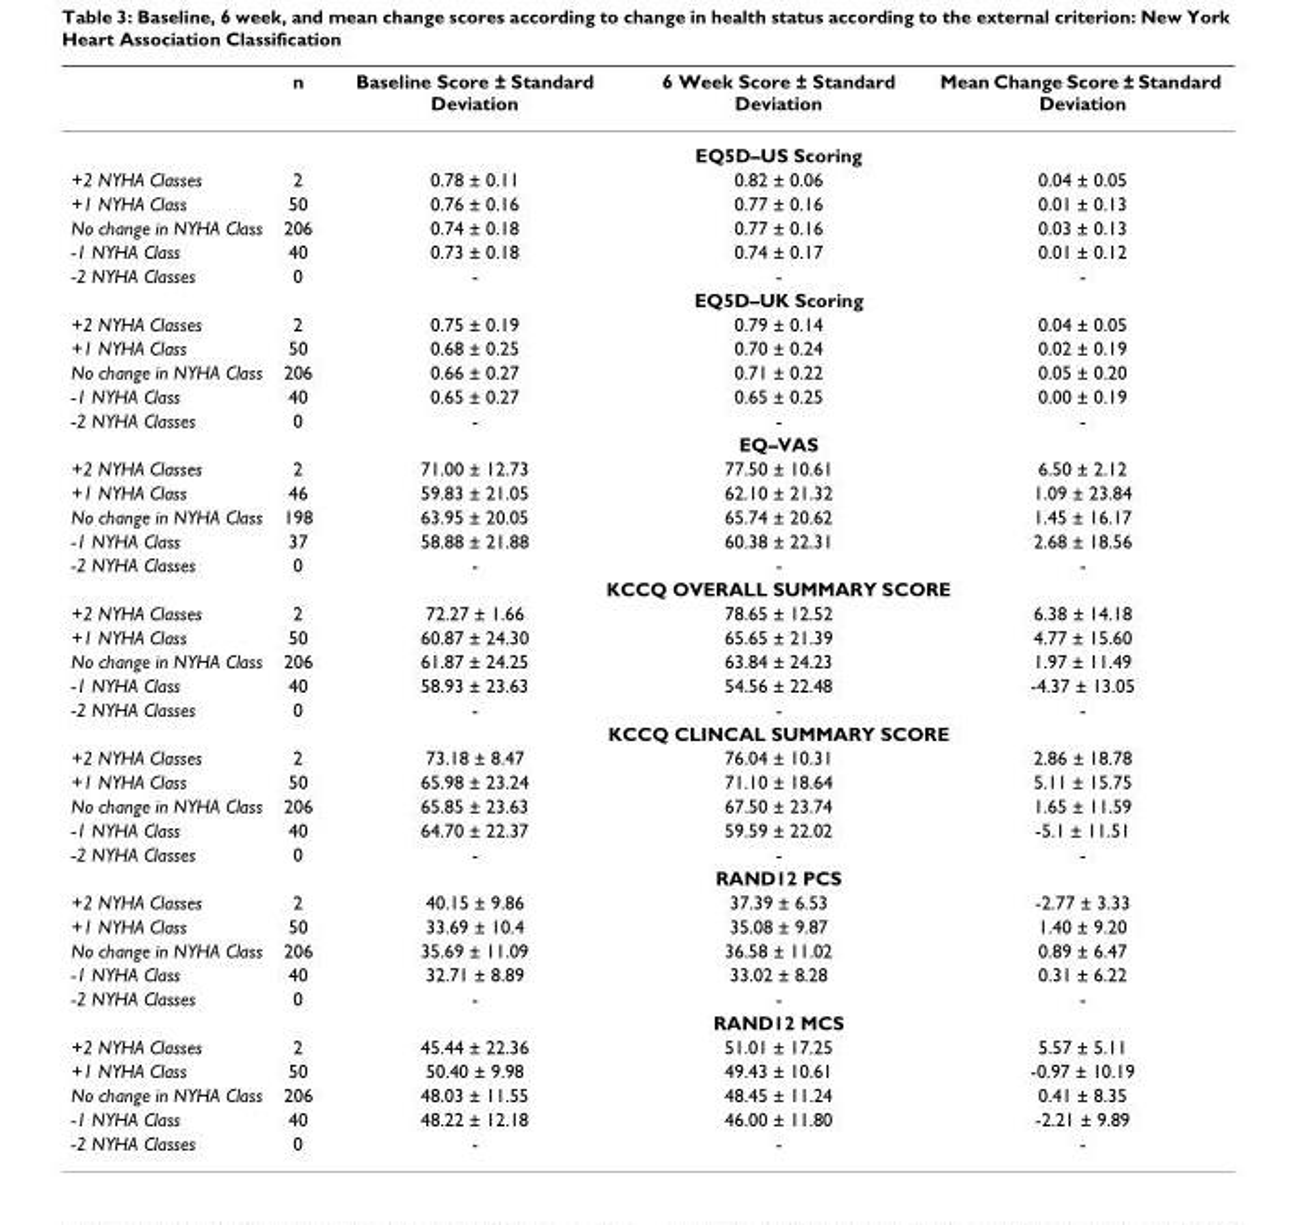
<table><thead><tr><td></td><td>n</td><td>Baseline Score ± Standard Deviation</td><td>6 Week Score ± Standard Deviation</td><td>Mean Change Score ± Standard Deviation</td></tr></thead><tbody><tr><td></td><td></td><td colspan="3">EQ5D–US Scoring</td></tr><tr><td>+2 NYHA Classes</td><td>2</td><td>0.78 ± 0.11</td><td>0.82 ± 0.06</td><td>0.04 ± 0.05</td></tr><tr><td>+1 NYHA Class</td><td>50</td><td>0.76 ± 0.16</td><td>0.77 ± 0.16</td><td>0.01 ± 0.13</td></tr><tr><td>No change in NYHA Class</td><td>206</td><td>0.74 ± 0.18</td><td>0.77 ± 0.16</td><td>0.03 ± 0.13</td></tr><tr><td>-1 NYHA Class</td><td>40</td><td>0.73 ± 0.18</td><td>0.74 ± 0.17</td><td>0.01 ± 0.12</td></tr><tr><td rowspan="2">-2 NYHA Classes</td><td>0</td><td>-</td><td>-</td><td>-</td></tr><tr><td></td><td colspan="3">EQ5D–UK Scoring</td></tr><tr><td>+2 NYHA Classes</td><td>2</td><td>0.75 ± 0.19</td><td>0.79 ± 0.14</td><td>0.04 ± 0.05</td></tr><tr><td>+1 NYHA Class</td><td>50</td><td>0.68 ± 0.25</td><td>0.70 ± 0.24</td><td>0.02 ± 0.19</td></tr><tr><td>No change in NYHA Class</td><td>206</td><td>0.66 ± 0.27</td><td>0.71 ± 0.22</td><td>0.05 ± 0.20</td></tr><tr><td>-1 NYHA Class</td><td>40</td><td>0.65 ± 0.27</td><td>0.65 ± 0.25</td><td>0.00 ± 0.19</td></tr><tr><td rowspan="2">-2 NYHA Classes</td><td>0</td><td>-</td><td>-</td><td>-</td></tr><tr><td></td><td colspan="3">EQ–VAS</td></tr><tr><td>+2 NYHA Classes</td><td>2</td><td>71.00 ± 12.73</td><td>77.50 ± 10.61</td><td>6.50 ± 2.12</td></tr><tr><td>+1 NYHA Class</td><td>46</td><td>59.83 ± 21.05</td><td>62.10 ± 21.32</td><td>1.09 ± 23.84</td></tr><tr><td>No change in NYHA Class</td><td>198</td><td>63.95 ± 20.05</td><td>65.74 ± 20.62</td><td>1.45 ± 16.17</td></tr><tr><td>-1 NYHA Class</td><td>37</td><td>58.88 ± 21.88</td><td>60.38 ± 22.31</td><td>2.68 ± 18.56</td></tr><tr><td rowspan="2">-2 NYHA Classes</td><td>0</td><td>-</td><td>-</td><td>-</td></tr><tr><td></td><td colspan="3">KCCQ OVERALL SUMMARY SCORE</td></tr><tr><td>+2 NYHA Classes</td><td>2</td><td>72.27 ± 1.66</td><td>78.65 ± 12.52</td><td>6.38 ± 14.18</td></tr><tr><td>+1 NYHA Class</td><td>50</td><td>60.87 ± 24.30</td><td>65.65 ± 21.39</td><td>4.77 ± 15.60</td></tr><tr><td>No change in NYHA Class</td><td>206</td><td>61.87 ± 24.25</td><td>63.84 ± 24.23</td><td>1.97 ± 11.49</td></tr><tr><td>-1 NYHA Class</td><td>40</td><td>58.93 ± 23.63</td><td>54.56 ± 22.48</td><td>-4.37 ± 13.05</td></tr><tr><td rowspan="2">-2 NYHA Classes</td><td>0</td><td>-</td><td>-</td><td>-</td></tr><tr><td></td><td colspan="3">KCCQ CLINCAL SUMMARY SCORE</td></tr><tr><td>+2 NYHA Classes</td><td>2</td><td>73.18 ± 8.47</td><td>76.04 ± 10.31</td><td>2.86 ± 18.78</td></tr><tr><td>+1 NYHA Class</td><td>50</td><td>65.98 ± 23.24</td><td>71.10 ± 18.64</td><td>5.11 ± 15.75</td></tr><tr><td>No change in NYHA Class</td><td>206</td><td>65.85 ± 23.63</td><td>67.50 ± 23.74</td><td>1.65 ± 11.59</td></tr><tr><td>-1 NYHA Class</td><td>40</td><td>64.70 ± 22.37</td><td>59.59 ± 22.02</td><td>-5.1 ± 11.51</td></tr><tr><td rowspan="2">-2 NYHA Classes</td><td>0</td><td>-</td><td>-</td><td>-</td></tr><tr><td></td><td colspan="3">RAND12 PCS</td></tr><tr><td>+2 NYHA Classes</td><td>2</td><td>40.15 ± 9.86</td><td>37.39 ± 6.53</td><td>-2.77 ± 3.33</td></tr><tr><td>+1 NYHA Class</td><td>50</td><td>33.69 ± 10.4</td><td>35.08 ± 9.87</td><td>1.40 ± 9.20</td></tr><tr><td>No change in NYHA Class</td><td>206</td><td>35.69 ± 11.09</td><td>36.58 ± 11.02</td><td>0.89 ± 6.47</td></tr><tr><td>-1 NYHA Class</td><td>40</td><td>32.71 ± 8.89</td><td>33.02 ± 8.28</td><td>0.31 ± 6.22</td></tr><tr><td rowspan="2">-2 NYHA Classes</td><td>0</td><td>-</td><td>-</td><td>-</td></tr><tr><td></td><td colspan="3">RAND12 MCS</td></tr><tr><td>+2 NYHA Classes</td><td>2</td><td>45.44 ± 22.36</td><td>51.01 ± 17.25</td><td>5.57 ± 5.11</td></tr><tr><td>+1 NYHA Class</td><td>50</td><td>50.40 ± 9.98</td><td>49.43 ± 10.61</td><td>-0.97 ± 10.19</td></tr><tr><td>No change in NYHA Class</td><td>206</td><td>48.03 ± 11.55</td><td>48.45 ± 11.24</td><td>0.41 ± 8.35</td></tr><tr><td>-1 NYHA Class</td><td>40</td><td>48.22 ± 12.18</td><td>46.00 ± 11.80</td><td>-2.21 ± 9.89</td></tr><tr><td>-2 NYHA Classes</td><td>0</td><td>-</td><td>-</td><td>-</td></tr></tbody></table>